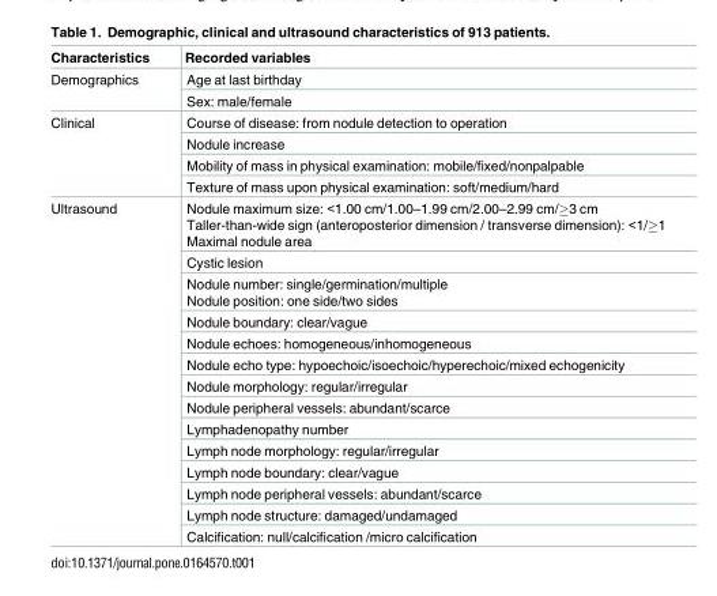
<table><thead><tr><td>Characteristics</td><td>Recorded variables</td></tr></thead><tbody><tr><td rowspan="2">Demographics</td><td>Age at last birthday</td></tr><tr><td>Sex: male/female</td></tr><tr><td rowspan="4">Clinical</td><td>Course of disease: from nodule detection to operation</td></tr><tr><td>Nodule increase</td></tr><tr><td>Mobility of mass in physical examination: mobile/fixed/nonpalpable</td></tr><tr><td>Texture of mass upon physical examination: soft/medium/hard</td></tr><tr><td rowspan="14">Ultrasound</td><td>Nodule maximum size: &lt;1.00 cm/1.00–1.99 cm/2.00–2.99 cm/≥3 cm Taller-than-wide sign (anteroposterior dimension / transverse dimension): &lt;1/≥1 Maximal nodule area</td></tr><tr><td>Cystic lesion</td></tr><tr><td>Nodule number: single/germination/multiple Nodule position: one side/two sides</td></tr><tr><td>Nodule boundary: clear/vague</td></tr><tr><td>Nodule echoes: homogeneous/inhomogeneous</td></tr><tr><td>Nodule echo type: hypoechoic/isoechoic/hyperechoic/mixed echogenicity</td></tr><tr><td>Nodule morphology: regular/irregular</td></tr><tr><td>Nodule peripheral vessels: abundant/scarce</td></tr><tr><td>Lymphadenopathy number</td></tr><tr><td>Lymph node morphology: regular/irregular</td></tr><tr><td>Lymph node boundary: clear/vague</td></tr><tr><td>Lymph node peripheral vessels: abundant/scarce</td></tr><tr><td>Lymph node structure: damaged/undamaged</td></tr><tr><td>Calcification: null/calcification /micro calcification</td></tr></tbody></table>